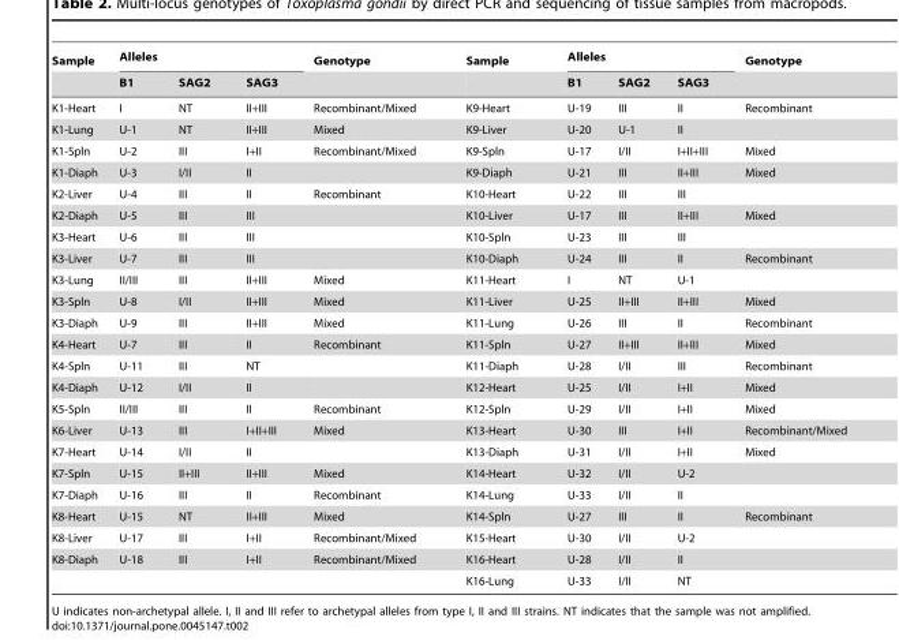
<table><thead><tr><td rowspan="2">Sample</td><td colspan="3">Alleles</td><td rowspan="2">Genotype</td><td rowspan="2">Sample</td><td colspan="3">Alleles</td><td rowspan="2">Genotype</td></tr><tr><td>B1</td><td>SAG2</td><td>SAG3</td><td>B1</td><td>SAG2</td><td>SAG3</td></tr></thead><tbody><tr><td>K1-Heart</td><td>I</td><td>NT</td><td>II+III</td><td>Recombinant/Mixed</td><td>K9-Heart</td><td>U-19</td><td>III</td><td>II</td><td>Recombinant</td></tr><tr><td>K1-Lung</td><td>U-1</td><td>NT</td><td>II+III</td><td>Mixed</td><td>K9-Liver</td><td>U-20</td><td>U-1</td><td>II</td><td></td></tr><tr><td>K1-Spln</td><td>U-2</td><td>III</td><td>I+II</td><td>Recombinant/Mixed</td><td>K9-Spln</td><td>U-17</td><td>I/II</td><td>I+II+III</td><td>Mixed</td></tr><tr><td>K1-Diaph</td><td>U-3</td><td>I/II</td><td>II</td><td></td><td>K9-Diaph</td><td>U-21</td><td>III</td><td>II+III</td><td>Mixed</td></tr><tr><td>K2-Liver</td><td>U-4</td><td>III</td><td>II</td><td>Recombinant</td><td>K10-Heart</td><td>U-22</td><td>III</td><td>III</td><td></td></tr><tr><td>K2-Diaph</td><td>U-5</td><td>III</td><td>III</td><td></td><td>K10-Liver</td><td>U-17</td><td>III</td><td>II+III</td><td>Mixed</td></tr><tr><td>K3-Heart</td><td>U-6</td><td>III</td><td>III</td><td></td><td>K10-Spln</td><td>U-23</td><td>III</td><td>III</td><td></td></tr><tr><td>K3-Liver</td><td>U-7</td><td>III</td><td>III</td><td></td><td>K10-Diaph</td><td>U-24</td><td>III</td><td>II</td><td>Recombinant</td></tr><tr><td>K3-Lung</td><td>II/III</td><td>III</td><td>II+III</td><td>Mixed</td><td>K11-Heart</td><td>I</td><td>NT</td><td>U-1</td><td></td></tr><tr><td>K3-Spln</td><td>U-8</td><td>I/II</td><td>II+III</td><td>Mixed</td><td>K11-Liver</td><td>U-25</td><td>II+III</td><td>II+III</td><td>Mixed</td></tr><tr><td>K3-Diaph</td><td>U-9</td><td>III</td><td>II+III</td><td>Mixed</td><td>K11-Lung</td><td>U-26</td><td>III</td><td>II</td><td>Recombinant</td></tr><tr><td>K4-Heart</td><td>U-7</td><td>III</td><td>II</td><td>Recombinant</td><td>K11-Spln</td><td>U-27</td><td>II+III</td><td>II+III</td><td>Mixed</td></tr><tr><td>K4-Spln</td><td>U-11</td><td>III</td><td>NT</td><td></td><td>K11-Diaph</td><td>U-28</td><td>I/II</td><td>III</td><td>Recombinant</td></tr><tr><td>K4-Diaph</td><td>U-12</td><td>I/II</td><td>II</td><td></td><td>K12-Heart</td><td>U-25</td><td>I/II</td><td>I+II</td><td>Mixed</td></tr><tr><td>K5-Spln</td><td>II/III</td><td>III</td><td>II</td><td>Recombinant</td><td>K12-Spln</td><td>U-29</td><td>I/II</td><td>I+II</td><td>Mixed</td></tr><tr><td>K6-Liver</td><td>U-13</td><td>III</td><td>I+II+III</td><td>Mixed</td><td>K13-Heart</td><td>U-30</td><td>III</td><td>I+II</td><td>Recombinant/Mixed</td></tr><tr><td>K7-Heart</td><td>U-14</td><td>I/II</td><td>II</td><td></td><td>K13-Diaph</td><td>U-31</td><td>I/II</td><td>I+II</td><td>Mixed</td></tr><tr><td>K7-Spln</td><td>U-15</td><td>II+III</td><td>II+III</td><td>Mixed</td><td>K14-Heart</td><td>U-32</td><td>I/II</td><td>U-2</td><td></td></tr><tr><td>K7-Diaph</td><td>U-16</td><td>III</td><td>II</td><td>Recombinant</td><td>K14-Lung</td><td>U-33</td><td>I/II</td><td>II</td><td></td></tr><tr><td>K8-Heart</td><td>U-15</td><td>NT</td><td>II+III</td><td>Mixed</td><td>K14-Spln</td><td>U-27</td><td>III</td><td>II</td><td>Recombinant</td></tr><tr><td>K8-Liver</td><td>U-17</td><td>III</td><td>I+II</td><td>Recombinant/Mixed</td><td>K15-Heart</td><td>U-30</td><td>I/II</td><td>U-2</td><td></td></tr><tr><td rowspan="2">K8-Diaph</td><td>U-18</td><td>III</td><td>I+II</td><td>Recombinant/Mixed</td><td>K16-Heart</td><td>U-28</td><td>I/II</td><td>II</td><td></td></tr><tr><td></td><td></td><td></td><td></td><td>K16-Lung</td><td>U-33</td><td>I/II</td><td>NT</td><td></td></tr></tbody></table>